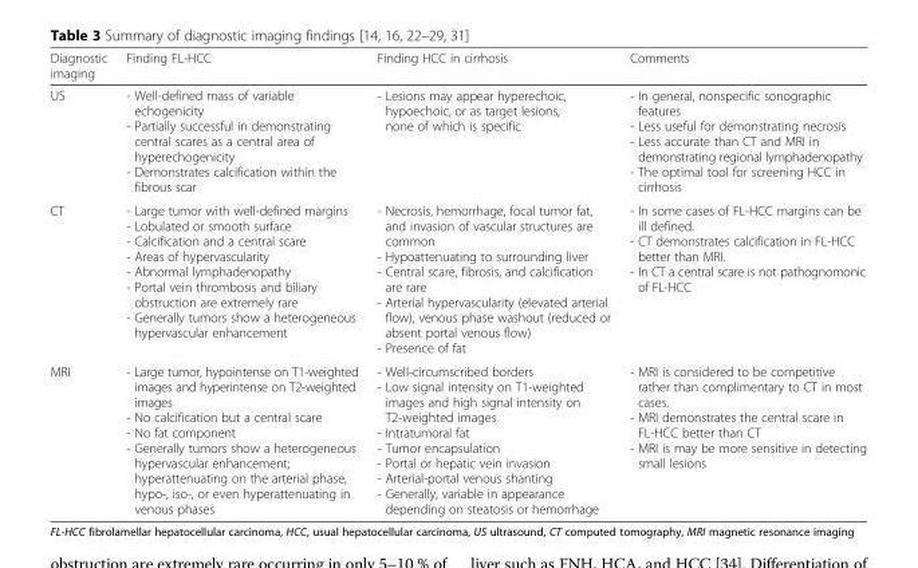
<table><thead><tr><td>Diagnostic imaging</td><td>Finding FL-HCC</td><td>Finding HCC in cirrhosis</td><td>Comments</td></tr></thead><tbody><tr><td>US</td><td>- Well-defined mass of variable echogenicity - Partially successful in demonstrating central scares as a central area of hyperechogenicity - Demonstrates calcification within the fibrous scar</td><td>- Lesions may appear hyperechoic, hypoechoic, or as target lesions, none of which is specific</td><td>- In general, nonspecific sonographic features - Less useful for demonstrating necrosis - Less accurate than CT and MRI in demonstrating regional lymphadenopathy - The optimal tool for screening HCC in cirrhosis</td></tr><tr><td>CT</td><td>- Large tumor with well-defined margins - Lobulated or smooth surface - Calcification and a central scare - Areas of hypervascularity - Abnormal lymphadenopathy - Portal vein thrombosis and biliary obstruction are extremely rare - Generally tumors show a heterogeneous hypervascular enhancement</td><td>- Necrosis, hemorrhage, focal tumor fat, and invasion of vascular structures are common - Hypoattenuating to surrounding liver - Central scare, fibrosis, and calcification are rare - Arterial hypervascularity (elevated arterial flow), venous phase washout (reduced or absent portal venous flow) - Presence of fat</td><td>- In some cases of FL-HCC margins can be ill defined. - CT demonstrates calcification in FL-HCC better than MRI. - In CT a central scare is not pathognomonic of FL-HCC</td></tr><tr><td>MRI</td><td>- Large tumor, hypointense on T1-weighted images and hyperintense on T2-weighted images - No calcification but a central scare - No fat component - Generally tumors show a heterogeneous hypervascular enhancement; hyperattenuating on the arterial phase, hypo-, iso-, or even hyperattenuating in venous phases</td><td>- Well-circumscribed borders - Low signal intensity on T1-weighted images and high signal intensity on T2-weighted images - Intratumoral fat - Tumor encapsulation - Portal or hepatic vein invasion - Arterial-portal venous shanting - Generally, variable in appearance depending on steatosis or hemorrhage</td><td>- MRI is considered to be competitive rather than complimentary to CT in most cases. - MRI demonstrates the central scare in FL-HCC better than CT - MRI is may be more sensitive in detecting small lesions</td></tr></tbody></table>